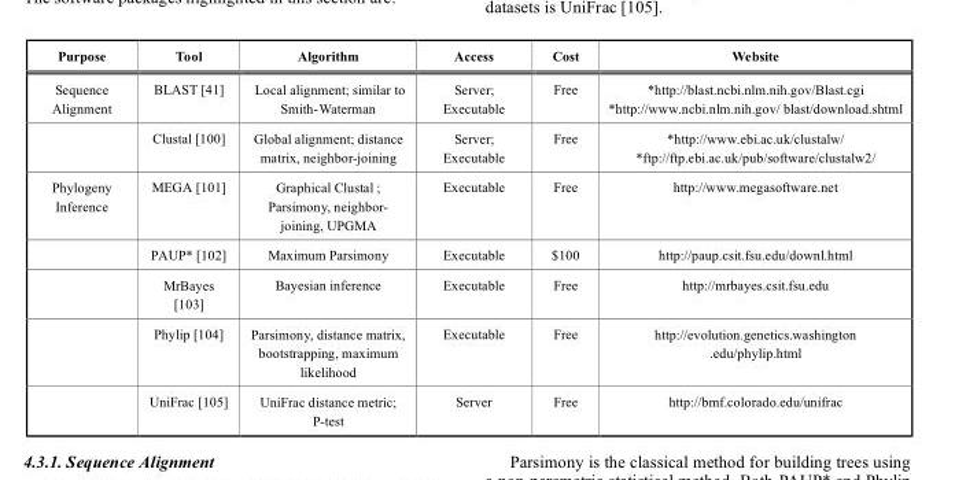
<table><thead><tr><td>Purpose</td><td>Tool</td><td>Algorithm</td><td>Access</td><td>Cost</td><td>Website</td></tr></thead><tbody><tr><td rowspan="2">Sequence Alignment</td><td>BLAST [41]</td><td>Local alignment; similar to Smith-Waterman</td><td>Server; Executable</td><td>Free</td><td>*http://blast.ncbi.nlm.nih.gov/Blast.cgi *http://www.ncbi.nlm.nih.gov/ blast/download.shtml</td></tr><tr><td>Clustal [100]</td><td>Global alignment; distance matrix, neighbor-joining</td><td>Server; Executable</td><td>Free</td><td>*http://www.ebi.ac.uk/clustalw/ *ftp://ftp.ebi.ac.uk/pub/software/clustalw2/</td></tr><tr><td rowspan="5">Phylogeny Inference</td><td>MEGA [101]</td><td>Graphical Clustal ; Parsimony, neighbor- joining, UPGMA</td><td>Executable</td><td>Free</td><td>http://www.megasoftware.net</td></tr><tr><td>PAUP* [102]</td><td>Maximum Parsimony</td><td>Executable</td><td>$100</td><td>http://paup.csit.fsu.edu/downl.html</td></tr><tr><td>MrBayes [103]</td><td>Bayesian inference</td><td>Executable</td><td>Free</td><td>http://mrbayes.csit.fsu.edu</td></tr><tr><td>Phylip [104]</td><td>Parsimony, distance matrix, bootstrapping, maximum likelihood</td><td>Executable</td><td>Free</td><td>http://evolution.genetics.washington .edu/phylip.html</td></tr><tr><td>UniFrac [105]</td><td>UniFrac distance metric; P-test</td><td>Server</td><td>Free</td><td>http://bmf.colorado.edu/unifrac</td></tr></tbody></table>